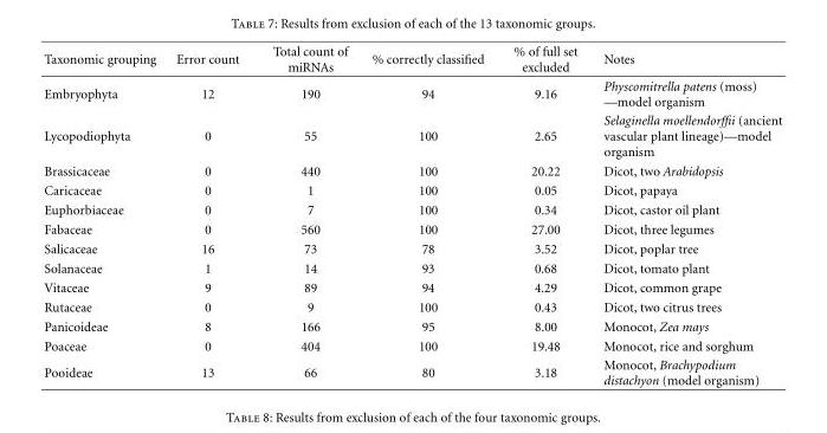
<table><thead><tr><td>Taxonomic grouping</td><td>Error count</td><td>Total count of miRNAs</td><td>% correctly classified</td><td>% of full set excluded</td><td>Notes</td></tr></thead><tbody><tr><td>Embryophyta</td><td>12</td><td>190</td><td>94</td><td>9.16</td><td>Physcomitrella patens (moss) —model organism</td></tr><tr><td>Lycopodiophyta</td><td>0</td><td>55</td><td>100</td><td>2.65</td><td>Selaginella moellendorffii (ancient vascular plant lineage)—model organism</td></tr><tr><td>Brassicaceae</td><td>0</td><td>440</td><td>100</td><td>20.22</td><td>Dicot, two Arabidopsis</td></tr><tr><td>Caricaceae</td><td>0</td><td>1</td><td>100</td><td>0.05</td><td>Dicot, papaya</td></tr><tr><td>Euphorbiaceae</td><td>0</td><td>7</td><td>100</td><td>0.34</td><td>Dicot, castor oil plant</td></tr><tr><td>Fabaceae</td><td>0</td><td>560</td><td>100</td><td>27.00</td><td>Dicot, three legumes</td></tr><tr><td>Salicaceae</td><td>16</td><td>73</td><td>78</td><td>3.52</td><td>Dicot, poplar tree</td></tr><tr><td>Solanaceae</td><td>1</td><td>14</td><td>93</td><td>0.68</td><td>Dicot, tomato plant</td></tr><tr><td>Vitaceae</td><td>9</td><td>89</td><td>94</td><td>4.29</td><td>Dicot, common grape</td></tr><tr><td>Rutaceae</td><td>0</td><td>9</td><td>100</td><td>0.43</td><td>Dicot, two citrus trees</td></tr><tr><td>Panicoideae</td><td>8</td><td>166</td><td>95</td><td>8.00</td><td>Monocot, Zea mays</td></tr><tr><td>Poaceae</td><td>0</td><td>404</td><td>100</td><td>19.48</td><td>Monocot, rice and sorghum</td></tr><tr><td>Pooideae</td><td>13</td><td>66</td><td>80</td><td>3.18</td><td>Monocot, Brachypodium distachyon (model organism)</td></tr></tbody></table>